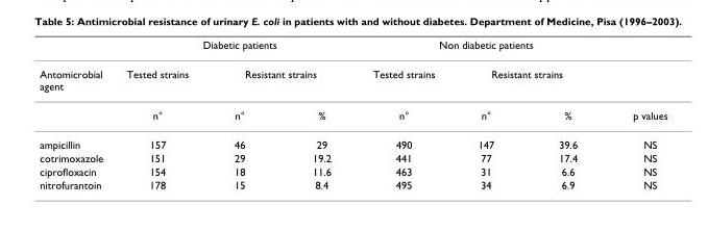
<table><thead><tr><td rowspan="3">Antomicrobial agent</td><td colspan="3">Diabetic patients</td><td colspan="3">Non diabetic patients</td><td rowspan="3">p values</td></tr><tr><td rowspan="2">Tested strains n°</td><td colspan="2">Resistant strains</td><td rowspan="2">Tested strains n°</td><td colspan="2">Resistant strains</td></tr><tr><td>n°</td><td>%</td><td>n°</td><td>%</td></tr></thead><tbody><tr><td>ampicillin</td><td>157</td><td>46</td><td>29</td><td>490</td><td>147</td><td>39.6</td><td>NS</td></tr><tr><td>cotrimoxazole</td><td>151</td><td>29</td><td>19.2</td><td>441</td><td>77</td><td>17.4</td><td>NS</td></tr><tr><td>ciprofloxacin</td><td>154</td><td>18</td><td>11.6</td><td>463</td><td>31</td><td>6.6</td><td>NS</td></tr><tr><td>nitrofurantoin</td><td>178</td><td>15</td><td>8.4</td><td>495</td><td>34</td><td>6.9</td><td>NS</td></tr></tbody></table>